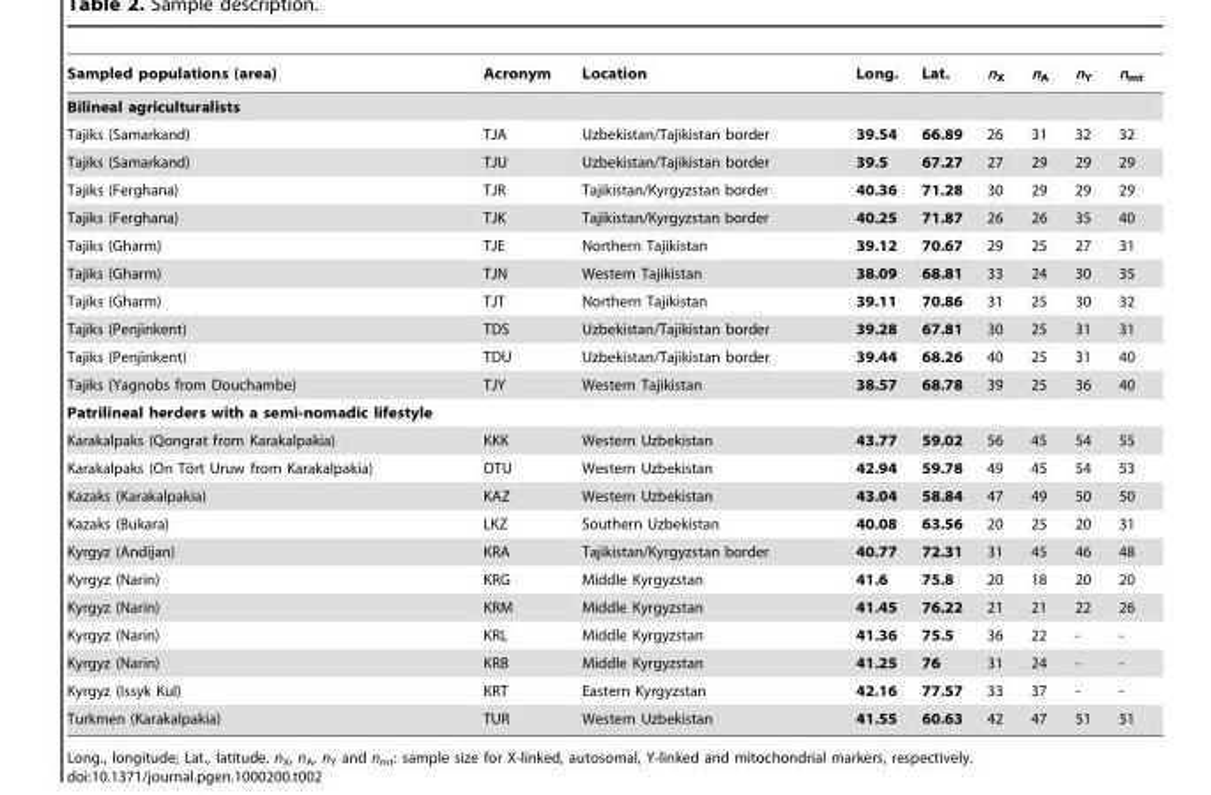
<table><thead><tr><td>Sampled populations (area)</td><td>Acronym</td><td>Location</td><td>Long.</td><td>Lat.</td><td>n<sub>X</sub></td><td>n<sub>A</sub></td><td>n<sub>Y</sub></td><td>n<sub>mt</sub></td></tr></thead><tbody><tr><td colspan="9">Bilineal agriculturalists</td></tr><tr><td>Tajiks (Samarkand)</td><td>TJA</td><td>Uzbekistan/Tajikistan border</td><td>39.54</td><td>66.89</td><td>26</td><td>31</td><td>32</td><td>32</td></tr><tr><td>Tajiks (Samarkand)</td><td>TJU</td><td>Uzbekistan/Tajikistan border</td><td>39.5</td><td>67.27</td><td>27</td><td>29</td><td>29</td><td>29</td></tr><tr><td>Tajiks (Ferghana)</td><td>TJR</td><td>Tajikistan/Kyrgyzstan border</td><td>40.36</td><td>71.28</td><td>30</td><td>29</td><td>29</td><td>29</td></tr><tr><td>Tajiks (Ferghana)</td><td>TJK</td><td>Tajikistan/Kyrgyzstan border</td><td>40.25</td><td>71.87</td><td>26</td><td>26</td><td>35</td><td>40</td></tr><tr><td>Tajiks (Gharm)</td><td>TJE</td><td>Northern Tajikistan</td><td>39.12</td><td>70.67</td><td>29</td><td>25</td><td>27</td><td>31</td></tr><tr><td>Tajiks (Gharm)</td><td>TJN</td><td>Western Tajikistan</td><td>38.09</td><td>68.81</td><td>33</td><td>24</td><td>30</td><td>35</td></tr><tr><td>Tajiks (Gharm)</td><td>TJT</td><td>Northern Tajikistan</td><td>39.11</td><td>70.86</td><td>31</td><td>25</td><td>30</td><td>32</td></tr><tr><td>Tajiks (Penjinkent)</td><td>TDS</td><td>Uzbekistan/Tajikistan border</td><td>39.28</td><td>67.81</td><td>30</td><td>25</td><td>31</td><td>31</td></tr><tr><td>Tajiks (Penjinkent)</td><td>TDU</td><td>Uzbekistan/Tajikistan border</td><td>39.44</td><td>68.26</td><td>40</td><td>25</td><td>31</td><td>40</td></tr><tr><td>Tajiks (Yagnobs from Douchambe)</td><td>TJY</td><td>Western Tajikistan</td><td>38.57</td><td>68.78</td><td>39</td><td>25</td><td>36</td><td>40</td></tr><tr><td colspan="9">Patrilineal herders with a semi-nomadic lifestyle</td></tr><tr><td>Karakalpaks (Qongrat from Karakalpakia)</td><td>KKK</td><td>Western Uzbekistan</td><td>43.77</td><td>59.02</td><td>56</td><td>45</td><td>54</td><td>55</td></tr><tr><td>Karakalpaks (On To¨rt Uruw from Karakalpakia)</td><td>OTU</td><td>Western Uzbekistan</td><td>42.94</td><td>59.78</td><td>49</td><td>45</td><td>54</td><td>53</td></tr><tr><td>Kazaks (Karakalpakia)</td><td>KAZ</td><td>Western Uzbekistan</td><td>43.04</td><td>58.84</td><td>47</td><td>49</td><td>50</td><td>50</td></tr><tr><td>Kazaks (Bukara)</td><td>LKZ</td><td>Southern Uzbekistan</td><td>40.08</td><td>63.56</td><td>20</td><td>25</td><td>20</td><td>31</td></tr><tr><td>Kyrgyz (Andijan)</td><td>KRA</td><td>Tajikistan/Kyrgyzstan border</td><td>40.77</td><td>72.31</td><td>31</td><td>45</td><td>46</td><td>48</td></tr><tr><td>Kyrgyz (Narin)</td><td>KRG</td><td>Middle Kyrgyzstan</td><td>41.6</td><td>75.8</td><td>20</td><td>18</td><td>20</td><td>20</td></tr><tr><td>Kyrgyz (Narin)</td><td>KRM</td><td>Middle Kyrgyzstan</td><td>41.45</td><td>76.22</td><td>21</td><td>21</td><td>22</td><td>26</td></tr><tr><td>Kyrgyz (Narin)</td><td>KRL</td><td>Middle Kyrgyzstan</td><td>41.36</td><td>75.5</td><td>36</td><td>22</td><td>-</td><td>-</td></tr><tr><td>Kyrgyz (Narin)</td><td>KRB</td><td>Middle Kyrgyzstan</td><td>41.25</td><td>76</td><td>31</td><td>24</td><td>-</td><td>-</td></tr><tr><td>Kyrgyz (Issyk Kul)</td><td>KRT</td><td>Eastern Kyrgyzstan</td><td>42.16</td><td>77.57</td><td>33</td><td>37</td><td>-</td><td>-</td></tr><tr><td>Turkmen (Karakalpakia)</td><td>TUR</td><td>Western Uzbekistan</td><td>41.55</td><td>60.63</td><td>42</td><td>47</td><td>51</td><td>51</td></tr></tbody></table>